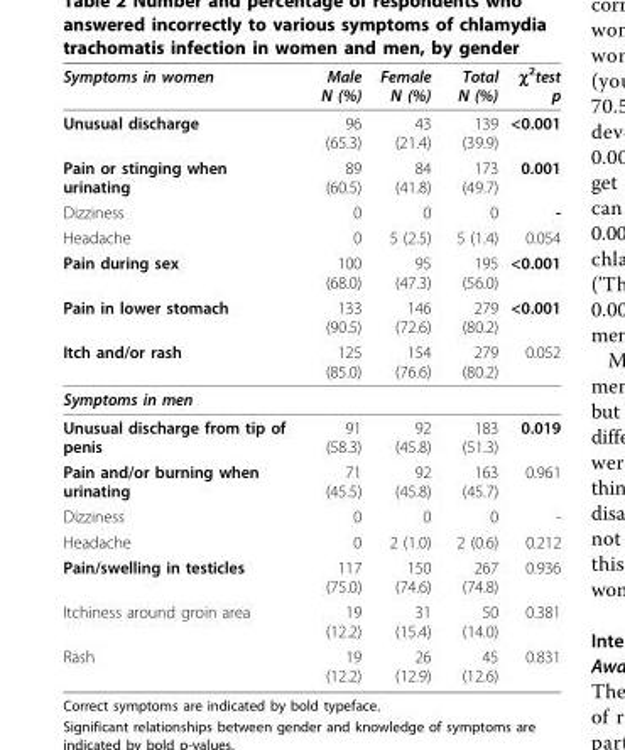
<table><thead><tr><td>Symptoms in women</td><td>Male N (%)</td><td>Female N (%)</td><td>Total N (%)</td><td>χ<sup>2</sup>test p</td></tr></thead><tbody><tr><td>Unusual discharge</td><td>96 (65.3)</td><td>43 (21.4)</td><td>139 (39.9)</td><td>&lt;0.001</td></tr><tr><td>Pain or stinging when urinating</td><td>89 (60.5)</td><td>84 (41.8)</td><td>173 (49.7)</td><td>0.001</td></tr><tr><td>Dizziness</td><td>0</td><td>0</td><td>0</td><td>-</td></tr><tr><td>Headache</td><td>0</td><td>5 (2.5)</td><td>5 (1.4)</td><td>0.054</td></tr><tr><td>Pain during sex</td><td>100 (68.0)</td><td>95 (47.3)</td><td>195 (56.0)</td><td>&lt;0.001</td></tr><tr><td>Pain in lower stomach</td><td>133 (90.5)</td><td>146 (72.6)</td><td>279 (80.2)</td><td>&lt;0.001</td></tr><tr><td>Itch and/or rash</td><td>125 (85.0)</td><td>154 (76.6)</td><td>279 (80.2)</td><td>0.052</td></tr><tr><td colspan="5">Symptoms in men</td></tr><tr><td>Unusual discharge from tip of penis</td><td>91 (58.3)</td><td>92 (45.8)</td><td>183 (51.3)</td><td>0.019</td></tr><tr><td>Pain and/or burning when urinating</td><td>71 (45.5)</td><td>92 (45.8)</td><td>163 (45.7)</td><td>0.961</td></tr><tr><td>Dizziness</td><td>0</td><td>0</td><td>0</td><td>-</td></tr><tr><td>Headache</td><td>0</td><td>2 (1.0)</td><td>2 (0.6)</td><td>0.212</td></tr><tr><td>Pain/swelling in testicles</td><td>117 (75.0)</td><td>150 (74.6)</td><td>267 (74.8)</td><td>0.936</td></tr><tr><td>Itchiness around groin area</td><td>19 (12.2)</td><td>31 (15.4)</td><td>50 (14.0)</td><td>0.381</td></tr><tr><td>Rash</td><td>19 (12.2)</td><td>26 (12.9)</td><td>45 (12.6)</td><td>0.831</td></tr></tbody></table>